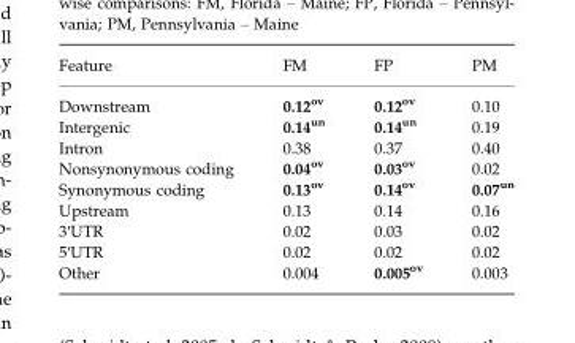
<table><thead><tr><td>Feature</td><td>FM</td><td>FP</td><td>PM</td></tr></thead><tbody><tr><td>Downstream</td><td>0.12<sup>ov</sup></td><td>0.12<sup>ov</sup></td><td>0.10</td></tr><tr><td>Intergenic</td><td>0.14<sup>un</sup></td><td>0.14<sup>un</sup></td><td>0.19</td></tr><tr><td>Intron</td><td>0.38</td><td>0.37</td><td>0.40</td></tr><tr><td>Nonsynonymous coding</td><td>0.04<sup>ov</sup></td><td>0.03<sup>ov</sup></td><td>0.02</td></tr><tr><td>Synonymous coding</td><td>0.13<sup>ov</sup></td><td>0.14<sup>ov</sup></td><td>0.07<sup>un</sup></td></tr><tr><td>Upstream</td><td>0.13</td><td>0.14</td><td>0.16</td></tr><tr><td>3′UTR</td><td>0.02</td><td>0.03</td><td>0.02</td></tr><tr><td>5′UTR</td><td>0.02</td><td>0.02</td><td>0.02</td></tr><tr><td>Other</td><td>0.004</td><td>0.005<sup>ov</sup></td><td>0.003</td></tr></tbody></table>